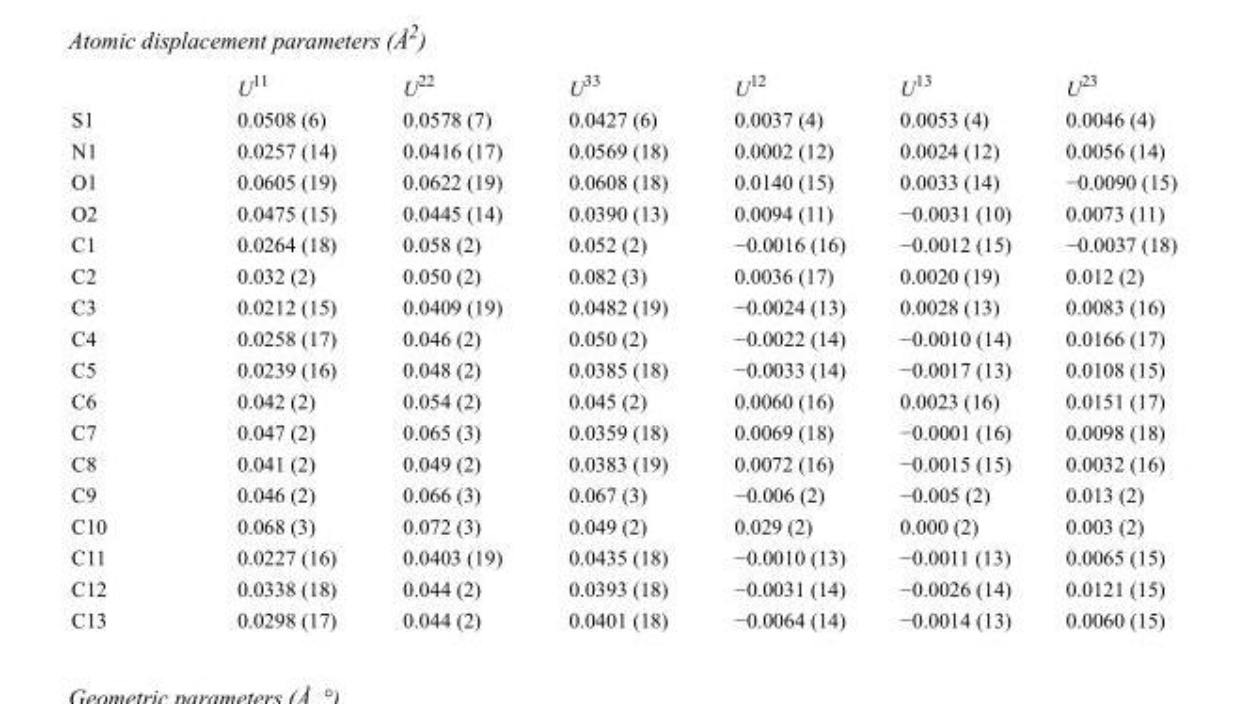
<table><thead><tr><td></td><td>U<sup>11</sup></td><td>U<sup>22</sup></td><td>U<sup>33</sup></td><td>U<sup>12</sup></td><td>U<sup>13</sup></td><td>U<sup>23</sup></td></tr></thead><tbody><tr><td>S1</td><td>0.0508 (6)</td><td>0.0578 (7)</td><td>0.0427 (6)</td><td>0.0037 (4)</td><td>0.0053 (4)</td><td>0.0046 (4)</td></tr><tr><td>N1</td><td>0.0257 (14)</td><td>0.0416 (17)</td><td>0.0569 (18)</td><td>0.0002 (12)</td><td>0.0024 (12)</td><td>0.0056 (14)</td></tr><tr><td>O1</td><td>0.0605 (19)</td><td>0.0622 (19)</td><td>0.0608 (18)</td><td>0.0140 (15)</td><td>0.0033 (14)</td><td>−0.0090 (15)</td></tr><tr><td>O2</td><td>0.0475 (15)</td><td>0.0445 (14)</td><td>0.0390 (13)</td><td>0.0094 (11)</td><td>−0.0031 (10)</td><td>0.0073 (11)</td></tr><tr><td>C1</td><td>0.0264 (18)</td><td>0.058 (2)</td><td>0.052 (2)</td><td>−0.0016 (16)</td><td>−0.0012 (15)</td><td>−0.0037 (18)</td></tr><tr><td>C2</td><td>0.032 (2)</td><td>0.050 (2)</td><td>0.082 (3)</td><td>0.0036 (17)</td><td>0.0020 (19)</td><td>0.012 (2)</td></tr><tr><td>C3</td><td>0.0212 (15)</td><td>0.0409 (19)</td><td>0.0482 (19)</td><td>−0.0024 (13)</td><td>0.0028 (13)</td><td>0.0083 (16)</td></tr><tr><td>C4</td><td>0.0258 (17)</td><td>0.046 (2)</td><td>0.050 (2)</td><td>−0.0022 (14)</td><td>−0.0010 (14)</td><td>0.0166 (17)</td></tr><tr><td>C5</td><td>0.0239 (16)</td><td>0.048 (2)</td><td>0.0385 (18)</td><td>−0.0033 (14)</td><td>−0.0017 (13)</td><td>0.0108 (15)</td></tr><tr><td>C6</td><td>0.042 (2)</td><td>0.054 (2)</td><td>0.045 (2)</td><td>0.0060 (16)</td><td>0.0023 (16)</td><td>0.0151 (17)</td></tr><tr><td>C7</td><td>0.047 (2)</td><td>0.065 (3)</td><td>0.0359 (18)</td><td>0.0069 (18)</td><td>−0.0001 (16)</td><td>0.0098 (18)</td></tr><tr><td>C8</td><td>0.041 (2)</td><td>0.049 (2)</td><td>0.0383 (19)</td><td>0.0072 (16)</td><td>−0.0015 (15)</td><td>0.0032 (16)</td></tr><tr><td>C9</td><td>0.046 (2)</td><td>0.066 (3)</td><td>0.067 (3)</td><td>−0.006 (2)</td><td>−0.005 (2)</td><td>0.013 (2)</td></tr><tr><td>C10</td><td>0.068 (3)</td><td>0.072 (3)</td><td>0.049 (2)</td><td>0.029 (2)</td><td>0.000 (2)</td><td>0.003 (2)</td></tr><tr><td>C11</td><td>0.0227 (16)</td><td>0.0403 (19)</td><td>0.0435 (18)</td><td>−0.0010 (13)</td><td>−0.0011 (13)</td><td>0.0065 (15)</td></tr><tr><td>C12</td><td>0.0338 (18)</td><td>0.044 (2)</td><td>0.0393 (18)</td><td>−0.0031 (14)</td><td>−0.0026 (14)</td><td>0.0121 (15)</td></tr><tr><td>C13</td><td>0.0298 (17)</td><td>0.044 (2)</td><td>0.0401 (18)</td><td>−0.0064 (14)</td><td>−0.0014 (13)</td><td>0.0060 (15)</td></tr></tbody></table>